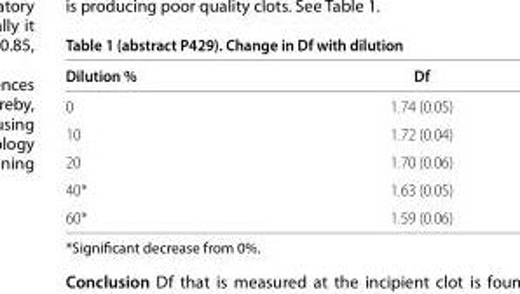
<table><thead><tr><td>Dilution %</td><td>Df</td></tr></thead><tbody><tr><td>0</td><td>1.74 (0.05)</td></tr><tr><td>10</td><td>1.72 (0.04)</td></tr><tr><td>20</td><td>1.70 (0.06)</td></tr><tr><td>40*</td><td>1.63 (0.05)</td></tr><tr><td>60*</td><td>1.59 (0.06)</td></tr></tbody></table>